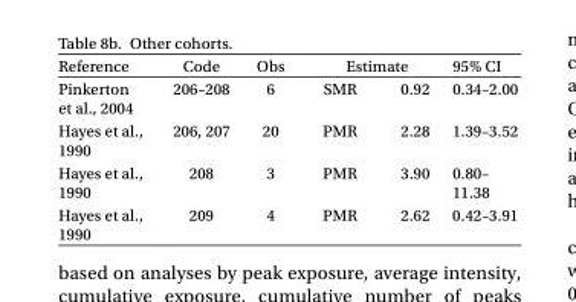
<table><thead><tr><td rowspan="2">Reference Pinkerton et al., 2004</td><td rowspan="2">Code 206–208</td><td rowspan="2">Obs 6</td><td colspan="2">Estimate</td><td rowspan="2">95% CI 0.34–2.00</td></tr><tr><td>SMR</td><td>0.92</td></tr></thead><tbody><tr><td>Hayes et al., 1990</td><td>206, 207</td><td>20</td><td>PMR</td><td>2.28</td><td>1.39–3.52</td></tr><tr><td>Hayes et al., 1990</td><td>208</td><td>3</td><td>PMR</td><td>3.90</td><td>0.80– 11.38</td></tr><tr><td>Hayes et al., 1990</td><td>209</td><td>4</td><td>PMR</td><td>2.62</td><td>0.42–3.91</td></tr></tbody></table>